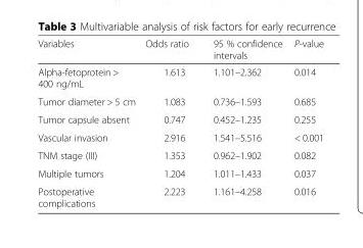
<table><thead><tr><td>Variables</td><td>Odds ratio</td><td>95 % confidence intervals</td><td>P-value</td></tr></thead><tbody><tr><td>Alpha-fetoprotein &gt; 400 ng/mL</td><td>1.613</td><td>1.101–2.362</td><td>0.014</td></tr><tr><td>Tumor diameter &gt; 5 cm</td><td>1.083</td><td>0.736–1.593</td><td>0.685</td></tr><tr><td>Tumor capsule absent</td><td>0.747</td><td>0.452–1.235</td><td>0.255</td></tr><tr><td>Vascular invasion</td><td>2.916</td><td>1.541–5.516</td><td>&lt; 0.001</td></tr><tr><td>TNM stage (III)</td><td>1.353</td><td>0.962–1.902</td><td>0.082</td></tr><tr><td>Multiple tumors</td><td>1.204</td><td>1.011–1.433</td><td>0.037</td></tr><tr><td>Postoperative complications</td><td>2.223</td><td>1.161–4.258</td><td>0.016</td></tr></tbody></table>